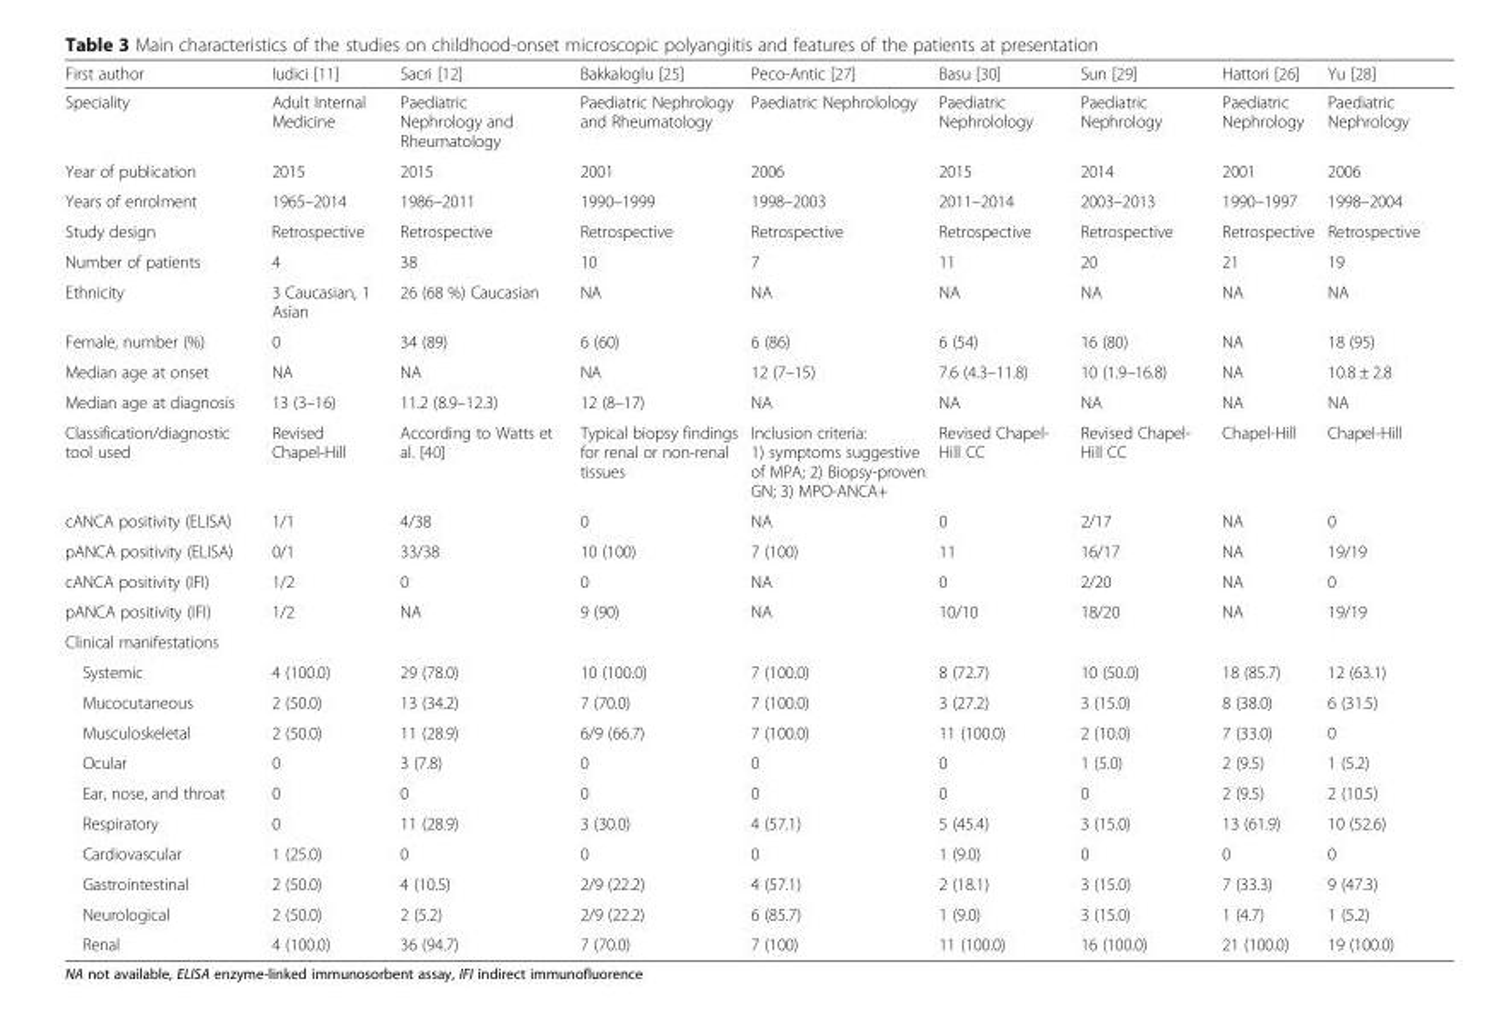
<table><thead><tr><td>First author</td><td>Iudici [11]</td><td>Sacri [12]</td><td>Bakkaloglu [25]</td><td>Peco-Antic [27]</td><td>Basu [30]</td><td>Sun [29]</td><td>Hattori [26]</td><td>Yu [28]</td></tr></thead><tbody><tr><td>Speciality</td><td>Adult Internal Medicine</td><td>Paediatric Nephrology and Rheumatology</td><td>Paediatric Nephrology and Rheumatology</td><td>Paediatric Nephrolology</td><td>Paediatric Nephrolology</td><td>Paediatric Nephrology</td><td>Paediatric Nephrology</td><td>Paediatric Nephrology</td></tr><tr><td>Year of publication</td><td>2015</td><td>2015</td><td>2001</td><td>2006</td><td>2015</td><td>2014</td><td>2001</td><td>2006</td></tr><tr><td>Years of enrolment</td><td>1965–2014</td><td>1986–2011</td><td>1990–1999</td><td>1998–2003</td><td>2011–2014</td><td>2003–2013</td><td>1990–1997</td><td>1998–2004</td></tr><tr><td>Study design</td><td>Retrospective</td><td>Retrospective</td><td>Retrospective</td><td>Retrospective</td><td>Retrospective</td><td>Retrospective</td><td>Retrospective</td><td>Retrospective</td></tr><tr><td>Number of patients</td><td>4</td><td>38</td><td>10</td><td>7</td><td>11</td><td>20</td><td>21</td><td>19</td></tr><tr><td>Ethnicity</td><td>3 Caucasian, 1 Asian</td><td>26 (68 %) Caucasian</td><td>NA</td><td>NA</td><td>NA</td><td>NA</td><td>NA</td><td>NA</td></tr><tr><td>Female, number (%)</td><td>0</td><td>34 (89)</td><td>6 (60)</td><td>6 (86)</td><td>6 (54)</td><td>16 (80)</td><td>NA</td><td>18 (95)</td></tr><tr><td>Median age at onset</td><td>NA</td><td>NA</td><td>NA</td><td>12 (7–15)</td><td>7.6 (4.3–11.8)</td><td>10 (1.9–16.8)</td><td>NA</td><td>10.8 ± 2.8</td></tr><tr><td>Median age at diagnosis</td><td>13 (3–16)</td><td>11.2 (8.9–12.3)</td><td>12 (8–17)</td><td>NA</td><td>NA</td><td>NA</td><td>NA</td><td>NA</td></tr><tr><td>Classification/diagnostic tool used</td><td>Revised Chapel-Hill</td><td>According to Watts et al. [40]</td><td>Typical biopsy findings for renal or non-renal tissues</td><td>Inclusion criteria: 1) symptoms suggestive of MPA; 2) Biopsy-proven GN; 3) MPO-ANCA+</td><td>Revised Chapel- Hill CC</td><td>Revised Chapel- Hill CC</td><td>Chapel-Hill</td><td>Chapel-Hill</td></tr><tr><td>cANCA positivity (ELISA)</td><td>1/1</td><td>4/38</td><td>0</td><td>NA</td><td>0</td><td>2/17</td><td>NA</td><td>0</td></tr><tr><td>pANCA positivity (ELISA)</td><td>0/1</td><td>33/38</td><td>10 (100)</td><td>7 (100)</td><td>11</td><td>16/17</td><td>NA</td><td>19/19</td></tr><tr><td>cANCA positivity (IFI)</td><td>1/2</td><td>0</td><td>0</td><td>NA</td><td>0</td><td>2/20</td><td>NA</td><td>0</td></tr><tr><td>pANCA positivity (IFI)</td><td>1/2</td><td>NA</td><td>9 (90)</td><td>NA</td><td>10/10</td><td>18/20</td><td>NA</td><td>19/19</td></tr><tr><td colspan="9">Clinical manifestations</td></tr><tr><td>Systemic</td><td>4 (100.0)</td><td>29 (78.0)</td><td>10 (100.0)</td><td>7 (100.0)</td><td>8 (72.7)</td><td>10 (50.0)</td><td>18 (85.7)</td><td>12 (63.1)</td></tr><tr><td>Mucocutaneous</td><td>2 (50.0)</td><td>13 (34.2)</td><td>7 (70.0)</td><td>7 (100.0)</td><td>3 (27.2)</td><td>3 (15.0)</td><td>8 (38.0)</td><td>6 (31.5)</td></tr><tr><td>Musculoskeletal</td><td>2 (50.0)</td><td>11 (28.9)</td><td>6/9 (66.7)</td><td>7 (100.0)</td><td>11 (100.0)</td><td>2 (10.0)</td><td>7 (33.0)</td><td>0</td></tr><tr><td>Ocular</td><td>0</td><td>3 (7.8)</td><td>0</td><td>0</td><td>0</td><td>1 (5.0)</td><td>2 (9.5)</td><td>1 (5.2)</td></tr><tr><td>Ear, nose, and throat</td><td>0</td><td>0</td><td>0</td><td>0</td><td>0</td><td>0</td><td>2 (9.5)</td><td>2 (10.5)</td></tr><tr><td>Respiratory</td><td>0</td><td>11 (28.9)</td><td>3 (30.0)</td><td>4 (57.1)</td><td>5 (45.4)</td><td>3 (15.0)</td><td>13 (61.9)</td><td>10 (52.6)</td></tr><tr><td>Cardiovascular</td><td>1 (25.0)</td><td>0</td><td>0</td><td>0</td><td>1 (9.0)</td><td>0</td><td>0</td><td>0</td></tr><tr><td>Gastrointestinal</td><td>2 (50.0)</td><td>4 (10.5)</td><td>2/9 (22.2)</td><td>4 (57.1)</td><td>2 (18.1)</td><td>3 (15.0)</td><td>7 (33.3)</td><td>9 (47.3)</td></tr><tr><td>Neurological</td><td>2 (50.0)</td><td>2 (5.2)</td><td>2/9 (22.2)</td><td>6 (85.7)</td><td>1 (9.0)</td><td>3 (15.0)</td><td>1 (4.7)</td><td>1 (5.2)</td></tr><tr><td>Renal</td><td>4 (100.0)</td><td>36 (94.7)</td><td>7 (70.0)</td><td>7 (100)</td><td>11 (100.0)</td><td>16 (100.0)</td><td>21 (100.0)</td><td>19 (100.0)</td></tr></tbody></table>